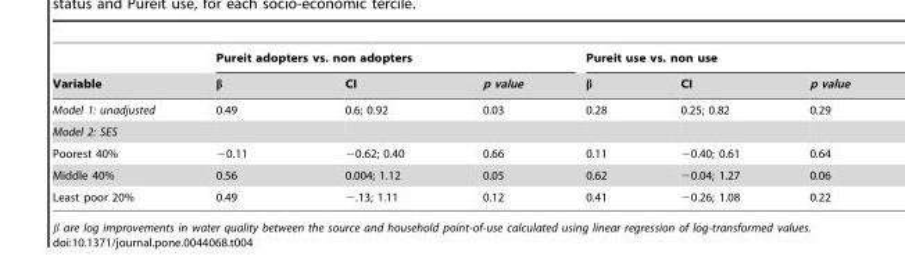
<table><thead><tr><td rowspan="2">Variable</td><td colspan="3">Pureit adopters vs. non adopters</td><td colspan="3">Pureit use vs. non use</td></tr><tr><td>β</td><td>CI</td><td>p value</td><td>β</td><td>CI</td><td>p value</td></tr></thead><tbody><tr><td>Model 1: unadjusted</td><td>0.49</td><td>0.6; 0.92</td><td>0.03</td><td>0.28</td><td>0.25; 0.82</td><td>0.29</td></tr><tr><td colspan="7">Model 2: SES</td></tr><tr><td>Poorest 40%</td><td>−0.11</td><td>−0.62; 0.40</td><td>0.66</td><td>0.11</td><td>−0.40; 0.61</td><td>0.64</td></tr><tr><td>Middle 40%</td><td>0.56</td><td>0.004; 1.12</td><td>0.05</td><td>0.62</td><td>−0.04; 1.27</td><td>0.06</td></tr><tr><td>Least poor 20%</td><td>0.49</td><td>−.13; 1.11</td><td>0.12</td><td>0.41</td><td>−0.26; 1.08</td><td>0.22</td></tr></tbody></table>